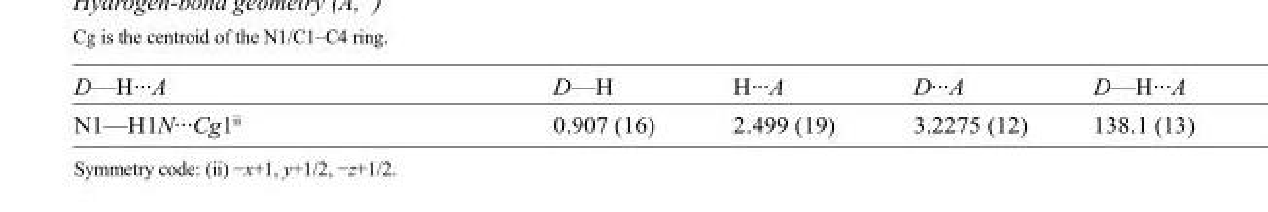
<table><tbody><tr><td>D—H···A</td><td>D—H</td><td>H···A</td><td>D···A</td><td>D—H···A</td></tr><tr><td>N1—H1N···Cg1<sup>ii</sup></td><td>0.907 (16)</td><td>2.499 (19)</td><td>3.2275 (12)</td><td>138.1 (13)</td></tr></tbody></table>